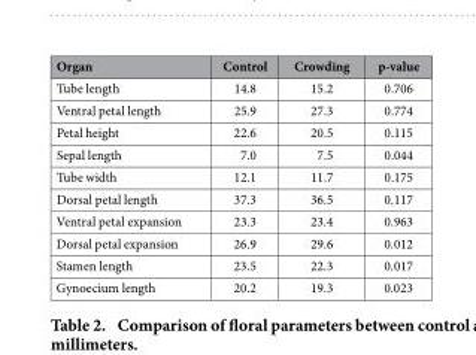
<table><thead><tr><td>Organ</td><td>Control</td><td>Crowding</td><td>p-value</td></tr></thead><tbody><tr><td>Tube length</td><td>14.8</td><td>15.2</td><td>0.706</td></tr><tr><td>Ventral petal length</td><td>25.9</td><td>27.3</td><td>0.774</td></tr><tr><td>Petal height</td><td>22.6</td><td>20.5</td><td>0.115</td></tr><tr><td>Sepal length</td><td>7.0</td><td>7.5</td><td>0.044</td></tr><tr><td>Tube width</td><td>12.1</td><td>11.7</td><td>0.175</td></tr><tr><td>Dorsal petal length</td><td>37.3</td><td>36.5</td><td>0.117</td></tr><tr><td>Ventral petal expansion</td><td>23.3</td><td>23.4</td><td>0.963</td></tr><tr><td>Dorsal petal expansion</td><td>26.9</td><td>29.6</td><td>0.012</td></tr><tr><td>Stamen length</td><td>23.5</td><td>22.3</td><td>0.017</td></tr><tr><td>Gynoecium length</td><td>20.2</td><td>19.3</td><td>0.023</td></tr></tbody></table>